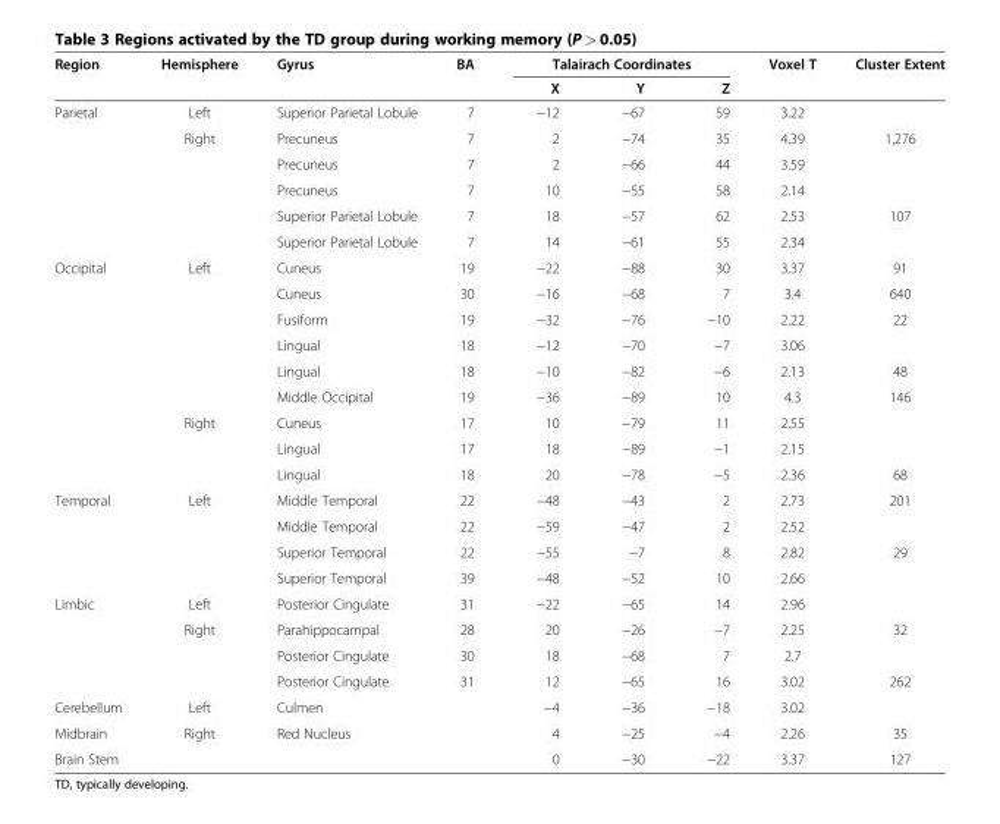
<table><thead><tr><td rowspan="2">Region</td><td rowspan="2">Hemisphere</td><td rowspan="2">Gyrus</td><td rowspan="2">BA</td><td colspan="3">Talairach Coordinates</td><td rowspan="2">Voxel T</td><td rowspan="2">Cluster Extent</td></tr><tr><td>X</td><td>Y</td><td>Z</td></tr></thead><tbody><tr><td rowspan="6">Parietal</td><td>Left</td><td>Superior Parietal Lobule</td><td>7</td><td>−12</td><td>−67</td><td>59</td><td>3.22</td><td></td></tr><tr><td>Right</td><td>Precuneus</td><td>7</td><td>2</td><td>−74</td><td>35</td><td>4.39</td><td>1,276</td></tr><tr><td></td><td>Precuneus</td><td>7</td><td>2</td><td>−66</td><td>44</td><td>3.59</td><td></td></tr><tr><td></td><td>Precuneus</td><td>7</td><td>10</td><td>−55</td><td>58</td><td>2.14</td><td></td></tr><tr><td></td><td>Superior Parietal Lobule</td><td>7</td><td>18</td><td>−57</td><td>62</td><td>2.53</td><td>107</td></tr><tr><td></td><td>Superior Parietal Lobule</td><td>7</td><td>14</td><td>−61</td><td>55</td><td>2.34</td><td></td></tr><tr><td rowspan="9">Occipital</td><td>Left</td><td>Cuneus</td><td>19</td><td>−22</td><td>−88</td><td>30</td><td>3.37</td><td>91</td></tr><tr><td></td><td>Cuneus</td><td>30</td><td>−16</td><td>−68</td><td>7</td><td>3.4</td><td>640</td></tr><tr><td></td><td>Fusiform</td><td>19</td><td>−32</td><td>−76</td><td>−10</td><td>2.22</td><td>22</td></tr><tr><td></td><td>Lingual</td><td>18</td><td>−12</td><td>−70</td><td>−7</td><td>3.06</td><td></td></tr><tr><td></td><td>Lingual</td><td>18</td><td>−10</td><td>−82</td><td>−6</td><td>2.13</td><td>48</td></tr><tr><td></td><td>Middle Occipital</td><td>19</td><td>−36</td><td>−89</td><td>10</td><td>4.3</td><td>146</td></tr><tr><td>Right</td><td>Cuneus</td><td>17</td><td>10</td><td>−79</td><td>11</td><td>2.55</td><td></td></tr><tr><td></td><td>Lingual</td><td>17</td><td>18</td><td>−89</td><td>−1</td><td>2.15</td><td></td></tr><tr><td></td><td>Lingual</td><td>18</td><td>20</td><td>−78</td><td>−5</td><td>2.36</td><td>68</td></tr><tr><td rowspan="4">Temporal</td><td>Left</td><td>Middle Temporal</td><td>22</td><td>−48</td><td>−43</td><td>2</td><td>2.73</td><td>201</td></tr><tr><td></td><td>Middle Temporal</td><td>22</td><td>−59</td><td>−47</td><td>2</td><td>2.52</td><td></td></tr><tr><td></td><td>Superior Temporal</td><td>22</td><td>−55</td><td>−7</td><td>8</td><td>2.82</td><td>29</td></tr><tr><td></td><td>Superior Temporal</td><td>39</td><td>−48</td><td>−52</td><td>10</td><td>2.66</td><td></td></tr><tr><td rowspan="4">Limbic</td><td>Left</td><td>Posterior Cingulate</td><td>31</td><td>−22</td><td>−65</td><td>14</td><td>2.96</td><td></td></tr><tr><td>Right</td><td>Parahippocampal</td><td>28</td><td>20</td><td>−26</td><td>−7</td><td>2.25</td><td>32</td></tr><tr><td></td><td>Posterior Cingulate</td><td>30</td><td>18</td><td>−68</td><td>7</td><td>2.7</td><td></td></tr><tr><td></td><td>Posterior Cingulate</td><td>31</td><td>12</td><td>−65</td><td>16</td><td>3.02</td><td>262</td></tr><tr><td>Cerebellum</td><td>Left</td><td>Culmen</td><td></td><td>−4</td><td>−36</td><td>−18</td><td>3.02</td><td></td></tr><tr><td>Midbrain</td><td>Right</td><td>Red Nucleus</td><td></td><td>4</td><td>−25</td><td>−4</td><td>2.26</td><td>35</td></tr><tr><td>Brain Stem</td><td></td><td></td><td></td><td>0</td><td>−30</td><td>−22</td><td>3.37</td><td>127</td></tr></tbody></table>